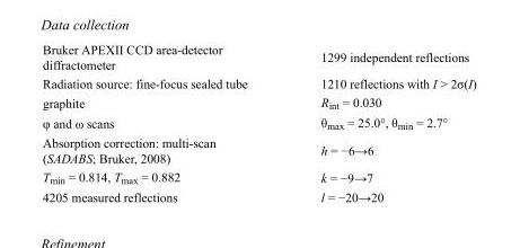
<table><tbody><tr><td>Bruker APEXII CCD area-detector diffractometer</td><td>1299 independent reflections</td></tr><tr><td>Radiation source: fine-focus sealed tube</td><td>1210 reflections with I &gt; 2σ(I)</td></tr><tr><td>graphite</td><td>R<sub>int</sub> = 0.030</td></tr><tr><td>φ and ω scans</td><td>θ<sub>max</sub> = 25.0°, θ<sub>min</sub> = 2.7°</td></tr><tr><td>Absorption correction: multi-scan (SADABS; Bruker, 2008)</td><td>h = −6→6</td></tr><tr><td>T<sub>min</sub> = 0.814, T<sub>max</sub> = 0.882</td><td>k = −9→7</td></tr><tr><td>4205 measured reflections</td><td>l = −20→20</td></tr></tbody></table>